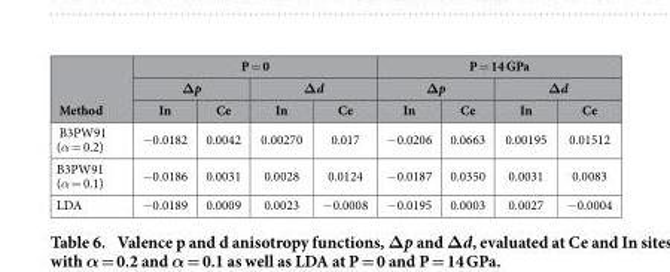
<table><thead><tr><td rowspan="3">Method</td><td colspan="4">P = 0</td><td colspan="4">P = 14 GPa</td></tr><tr><td colspan="2">Δ p</td><td colspan="2">Δ d</td><td colspan="2">Δ p</td><td colspan="2">Δ d</td></tr><tr><td>In</td><td>Ce</td><td>In</td><td>Ce</td><td>In</td><td>Ce</td><td>In</td><td>Ce</td></tr></thead><tbody><tr><td>B3PW91 (α = 0.2)</td><td>− 0.0182</td><td>0.0042</td><td>0.00270</td><td>0.017</td><td>− 0.0206</td><td>0.0663</td><td>0.00195</td><td>0.01512</td></tr><tr><td>B3PW91 (α = 0.1)</td><td>− 0.0186</td><td>0.0031</td><td>0.0028</td><td>0.0124</td><td>− 0.0187</td><td>0.0350</td><td>0.0031</td><td>0.0083</td></tr><tr><td>LDA</td><td>− 0.0189</td><td>0.0009</td><td>0.0023</td><td>− 0.0008</td><td>− 0.0195</td><td>0.0003</td><td>0.0027</td><td>− 0.0004</td></tr></tbody></table>